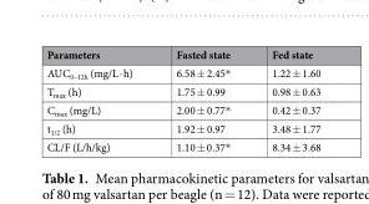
<table><thead><tr><td>Parameters</td><td>Fasted state</td><td>Fed state</td></tr></thead><tbody><tr><td>AUC<sub>0–12h</sub> (mg/L · h)</td><td>6.58 ± 2.45*</td><td>1.22 ± 1.60</td></tr><tr><td>T<sub>max</sub> (h)</td><td>1.75 ± 0.99</td><td>0.98 ± 0.63</td></tr><tr><td>C<sub>max</sub> (mg/L)</td><td>2.00 ± 0.77*</td><td>0.42 ± 0.37</td></tr><tr><td>t<sub>1/2</sub> (h)</td><td>1.92 ± 0.97</td><td>3.48 ± 1.77</td></tr><tr><td>CL/F (L/h/kg)</td><td>1.10 ± 0.37*</td><td>8.34 ± 3.68</td></tr></tbody></table>